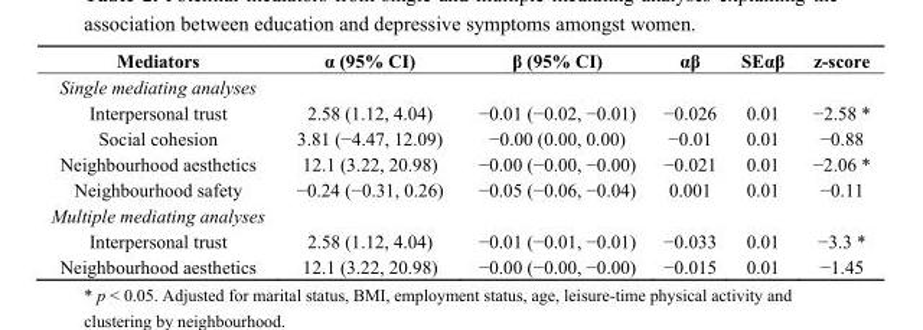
<table><thead><tr><td>Mediators</td><td>α (95% CI)</td><td>β (95% CI)</td><td>αβ</td><td>SEαβ</td><td>z-score</td></tr></thead><tbody><tr><td colspan="6">Single mediating analyses</td></tr><tr><td>Interpersonal trust</td><td>2.58 (1.12, 4.04)</td><td>−0.01 (−0.02, −0.01)</td><td>−0.026</td><td>0.01</td><td>−2.58 *</td></tr><tr><td>Social cohesion</td><td>3.81 (−4.47, 12.09)</td><td>−0.00 (0.00, 0.00)</td><td>−0.01</td><td>0.01</td><td>−0.88</td></tr><tr><td>Neighbourhood aesthetics</td><td>12.1 (3.22, 20.98)</td><td>−0.00 (−0.00, −0.00)</td><td>−0.021</td><td>0.01</td><td>−2.06 *</td></tr><tr><td>Neighbourhood safety</td><td>−0.24 (−0.31, 0.26)</td><td>−0.05 (−0.06, −0.04)</td><td>0.001</td><td>0.01</td><td>−0.11</td></tr><tr><td colspan="6">Multiple mediating analyses</td></tr><tr><td>Interpersonal trust</td><td>2.58 (1.12, 4.04)</td><td>−0.01 (−0.01, −0.01)</td><td>−0.033</td><td>0.01</td><td>−3.3 *</td></tr><tr><td>Neighbourhood aesthetics</td><td>12.1 (3.22, 20.98)</td><td>−0.00 (−0.00, −0.00)</td><td>−0.015</td><td>0.01</td><td>−1.45</td></tr></tbody></table>